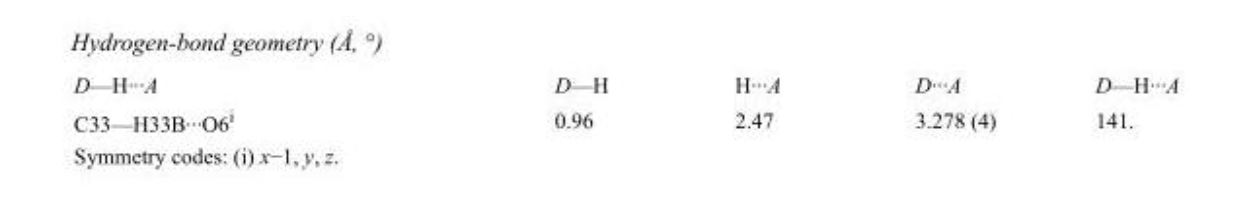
<table><tbody><tr><td>D—H···A</td><td>D—H</td><td>H···A</td><td>D···A</td><td>D—H···A</td></tr><tr><td>C33—H33B···O6<sup>i</sup></td><td>0.96</td><td>2.47</td><td>3.278 (4)</td><td>141.</td></tr></tbody></table>